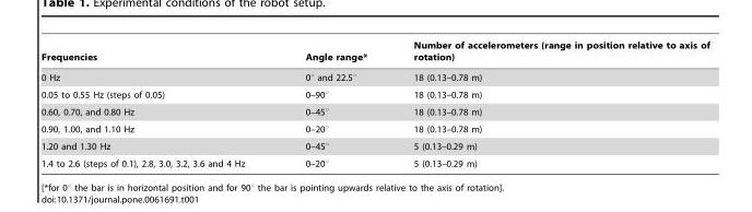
<table><thead><tr><td>Frequencies</td><td>Angle range*</td><td>Number of accelerometers (range in position relative to axis of rotation)</td></tr></thead><tbody><tr><td>0 Hz</td><td>0° and 22.5°</td><td>18 (0.13–0.78 m)</td></tr><tr><td>0.05 to 0.55 Hz (steps of 0.05)</td><td>0–90°</td><td>18 (0.13–0.78 m)</td></tr><tr><td>0.60, 0.70, and 0.80 Hz</td><td>0–45°</td><td>18 (0.13–0.78 m)</td></tr><tr><td>0.90, 1.00, and 1.10 Hz</td><td>0–20°</td><td>18 (0.13–0.78 m)</td></tr><tr><td>1.20 and 1.30 Hz</td><td>0–45°</td><td>5 (0.13–0.29 m)</td></tr><tr><td>1.4 to 2.6 (steps of 0.1), 2.8, 3.0, 3.2, 3.6 and 4 Hz</td><td>0–20°</td><td>5 (0.13–0.29 m)</td></tr></tbody></table>